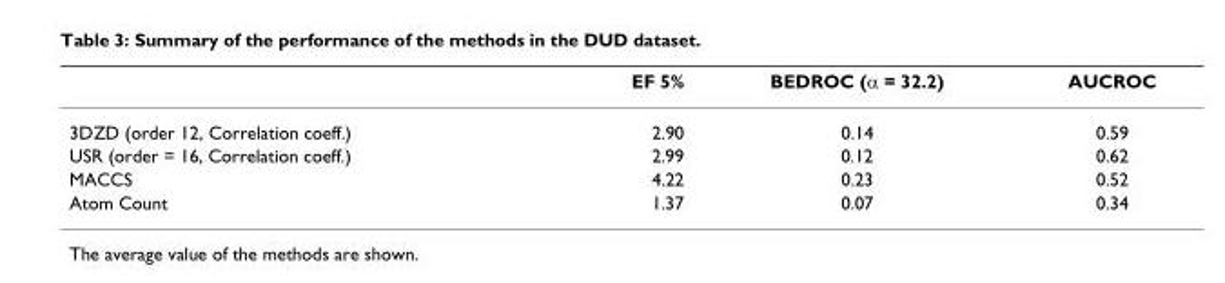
<table><thead><tr><td></td><td>EF 5%</td><td>BEDROC (α = 32.2)</td><td>AUCROC</td></tr></thead><tbody><tr><td>3DZD (order 12, Correlation coeff.)</td><td>2.90</td><td>0.14</td><td>0.59</td></tr><tr><td>USR (order = 16, Correlation coeff.)</td><td>2.99</td><td>0.12</td><td>0.62</td></tr><tr><td>MACCS</td><td>4.22</td><td>0.23</td><td>0.52</td></tr><tr><td>Atom Count</td><td>1.37</td><td>0.07</td><td>0.34</td></tr></tbody></table>